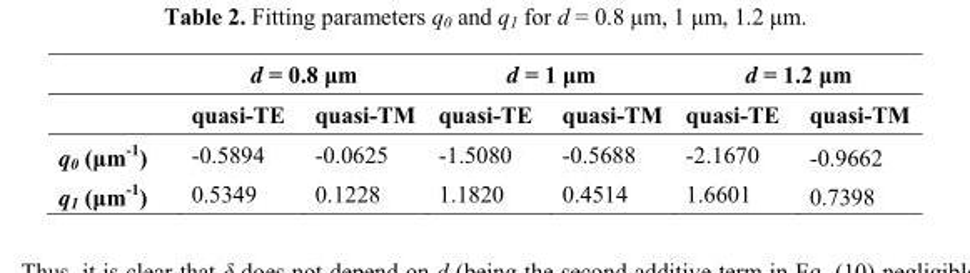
<table><thead><tr><td rowspan="2"></td><td colspan="2">d = 0.8 μm</td><td colspan="2">d = 1 μm</td><td colspan="2">d = 1.2 μm</td></tr><tr><td>quasi-TE</td><td>quasi-TM</td><td>quasi-TE</td><td>quasi-TM</td><td>quasi-TE</td><td>quasi-TM</td></tr></thead><tbody><tr><td>q<sub>0</sub> (μm<sup>-1</sup>)</td><td>-0.5894</td><td>-0.0625</td><td>-1.5080</td><td>-0.5688</td><td>-2.1670</td><td>-0.9662</td></tr><tr><td>q<sub>1</sub> (μm<sup>-1</sup>)</td><td>0.5349</td><td>0.1228</td><td>1.1820</td><td>0.4514</td><td>1.6601</td><td>0.7398</td></tr></tbody></table>